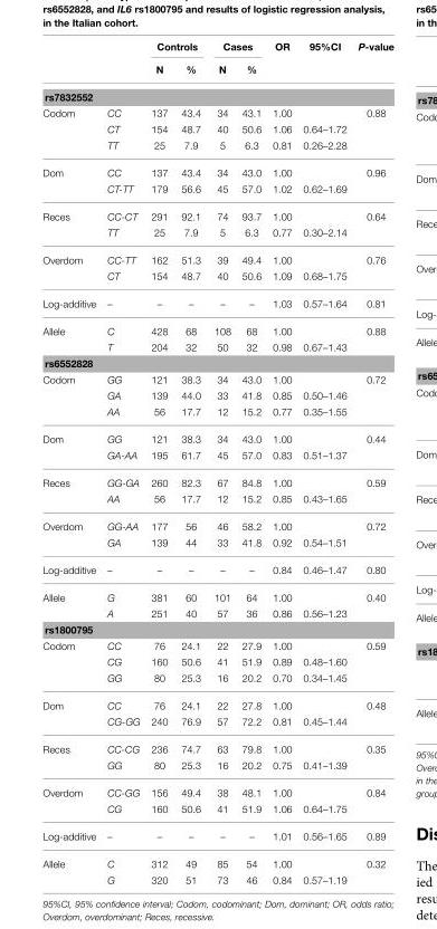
<table><thead><tr><td rowspan="2"></td><td rowspan="2"></td><td colspan="2">Controls</td><td colspan="2">Cases</td><td rowspan="2">OR</td><td rowspan="2">95%CI</td><td rowspan="2">P-value</td></tr><tr><td>N</td><td>%</td><td>N</td><td>%</td></tr></thead><tbody><tr><td colspan="9">rs7832552</td></tr><tr><td rowspan="3">Codom</td><td>CC</td><td>137</td><td>43.4</td><td>34</td><td>43.1</td><td>1.00</td><td></td><td>0.88</td></tr><tr><td>CT</td><td>154</td><td>48.7</td><td>40</td><td>50.6</td><td>1.06</td><td>0.64–1.72</td><td></td></tr><tr><td>TT</td><td>25</td><td>7.9</td><td>5</td><td>6.3</td><td>0.81</td><td>0.26–2.28</td><td></td></tr><tr><td rowspan="2">Dom</td><td>CC</td><td>137</td><td>43.4</td><td>34</td><td>43.0</td><td>1.00</td><td></td><td>0.96</td></tr><tr><td>CT-TT</td><td>179</td><td>56.6</td><td>45</td><td>57.0</td><td>1.02</td><td>0.62–1.69</td><td></td></tr><tr><td rowspan="2">Reces</td><td>CC-CT</td><td>291</td><td>92.1</td><td>74</td><td>93.7</td><td>1.00</td><td></td><td>0.64</td></tr><tr><td>TT</td><td>25</td><td>7.9</td><td>5</td><td>6.3</td><td>0.77</td><td>0.30–2.14</td><td></td></tr><tr><td rowspan="2">Overdom</td><td>CC-TT</td><td>162</td><td>51.3</td><td>39</td><td>49.4</td><td>1.00</td><td></td><td>0.76</td></tr><tr><td>CT</td><td>154</td><td>48.7</td><td>40</td><td>50.6</td><td>1.09</td><td>0.68–1.75</td><td></td></tr><tr><td>Log-additive</td><td>–</td><td>–</td><td>–</td><td>–</td><td>–</td><td>1.03</td><td>0.57–1.64</td><td>0.81</td></tr><tr><td rowspan="2">Allele</td><td>C</td><td>428</td><td>68</td><td>108</td><td>68</td><td>1.00</td><td></td><td>0.88</td></tr><tr><td>T</td><td>204</td><td>32</td><td>50</td><td>32</td><td>0.98</td><td>0.67–1.43</td><td></td></tr><tr><td colspan="9">rs6552828</td></tr><tr><td rowspan="3">Codom</td><td>GG</td><td>121</td><td>38.3</td><td>34</td><td>43.0</td><td>1.00</td><td></td><td>0.72</td></tr><tr><td>GA</td><td>139</td><td>44.0</td><td>33</td><td>41.8</td><td>0.85</td><td>0.50–1.46</td><td></td></tr><tr><td>AA</td><td>56</td><td>17.7</td><td>12</td><td>15.2</td><td>0.77</td><td>0.35–1.55</td><td></td></tr><tr><td rowspan="2">Dom</td><td>GG</td><td>121</td><td>38.3</td><td>34</td><td>43.0</td><td>1.00</td><td></td><td>0.44</td></tr><tr><td>GA-AA</td><td>195</td><td>61.7</td><td>45</td><td>57.0</td><td>0.83</td><td>0.51–1.37</td><td></td></tr><tr><td rowspan="2">Reces</td><td>GG-GA</td><td>260</td><td>82.3</td><td>67</td><td>84.8</td><td>1.00</td><td></td><td>0.59</td></tr><tr><td>AA</td><td>56</td><td>17.7</td><td>12</td><td>15.2</td><td>0.85</td><td>0.43–1.65</td><td></td></tr><tr><td rowspan="2">Overdom</td><td>GG-AA</td><td>177</td><td>56</td><td>46</td><td>58.2</td><td>1.00</td><td></td><td>0.72</td></tr><tr><td>GA</td><td>139</td><td>44</td><td>33</td><td>41.8</td><td>0.92</td><td>0.54–1.51</td><td></td></tr><tr><td>Log-additive</td><td>–</td><td>–</td><td>–</td><td>–</td><td>–</td><td>0.84</td><td>0.46–1.47</td><td>0.80</td></tr><tr><td rowspan="2">Allele</td><td>G</td><td>381</td><td>60</td><td>101</td><td>64</td><td>1.00</td><td></td><td>0.40</td></tr><tr><td>A</td><td>251</td><td>40</td><td>57</td><td>36</td><td>0.86</td><td>0.56–1.23</td><td></td></tr><tr><td colspan="9">rs1800795</td></tr><tr><td rowspan="3">Codom</td><td>CC</td><td>76</td><td>24.1</td><td>22</td><td>27.9</td><td>1.00</td><td></td><td>0.59</td></tr><tr><td>CG</td><td>160</td><td>50.6</td><td>41</td><td>51.9</td><td>0.89</td><td>0.48–1.60</td><td></td></tr><tr><td>GG</td><td>80</td><td>25.3</td><td>16</td><td>20.2</td><td>0.70</td><td>0.34–1.45</td><td></td></tr><tr><td rowspan="2">Dom</td><td>CC</td><td>76</td><td>24.1</td><td>22</td><td>27.8</td><td>1.00</td><td></td><td>0.48</td></tr><tr><td>CG-GG</td><td>240</td><td>76.9</td><td>57</td><td>72.2</td><td>0.81</td><td>0.45–1.44</td><td></td></tr><tr><td rowspan="2">Reces</td><td>CC-CG</td><td>236</td><td>74.7</td><td>63</td><td>79.8</td><td>1.00</td><td></td><td>0.35</td></tr><tr><td>GG</td><td>80</td><td>25.3</td><td>16</td><td>20.2</td><td>0.75</td><td>0.41–1.39</td><td></td></tr><tr><td rowspan="2">Overdom</td><td>CC-GG</td><td>156</td><td>49.4</td><td>38</td><td>48.1</td><td>1.00</td><td></td><td>0.84</td></tr><tr><td>CG</td><td>160</td><td>50.6</td><td>41</td><td>51.9</td><td>1.06</td><td>0.64–1.75</td><td></td></tr><tr><td>Log-additive</td><td>–</td><td>–</td><td>–</td><td>–</td><td>–</td><td>1.01</td><td>0.56–1.65</td><td>0.89</td></tr><tr><td rowspan="2">Allele</td><td>C</td><td>312</td><td>49</td><td>85</td><td>54</td><td>1.00</td><td></td><td>0.32</td></tr><tr><td>G</td><td>320</td><td>51</td><td>73</td><td>46</td><td>0.84</td><td>0.57–1.19</td><td></td></tr></tbody></table>